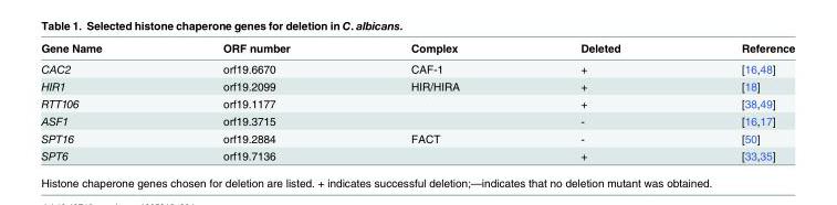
<table><thead><tr><td>Gene Name</td><td>ORF number</td><td>Complex</td><td>Deleted</td><td>Reference</td></tr></thead><tbody><tr><td>CAC2</td><td>orf19.6670</td><td>CAF-1</td><td>+</td><td>[16,48]</td></tr><tr><td>HIR1</td><td>orf19.2099</td><td>HIR/HIRA</td><td>+</td><td>[18]</td></tr><tr><td>RTT106</td><td>orf19.1177</td><td></td><td>+</td><td>[38,49]</td></tr><tr><td>ASF1</td><td>orf19.3715</td><td></td><td>-</td><td>[16,17]</td></tr><tr><td>SPT16</td><td>orf19.2884</td><td>FACT</td><td>-</td><td>[50]</td></tr><tr><td>SPT6</td><td>orf19.7136</td><td></td><td>+</td><td>[33,35]</td></tr></tbody></table>